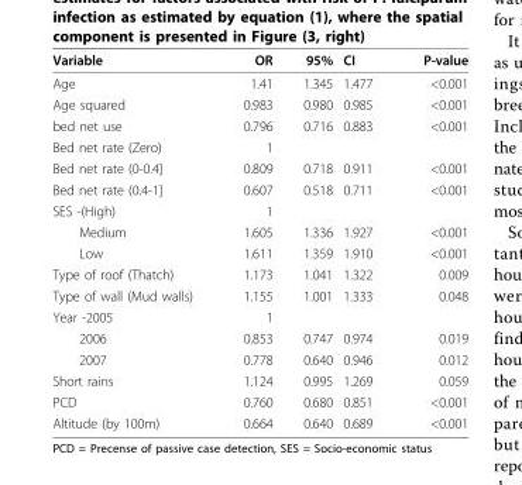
<table><thead><tr><td>Variable</td><td>OR</td><td>95%</td><td>CI</td><td>P-value</td></tr></thead><tbody><tr><td>Age</td><td>1.41</td><td>1.345</td><td>1.477</td><td>&lt;0.001</td></tr><tr><td>Age squared</td><td>0.983</td><td>0.980</td><td>0.985</td><td>&lt;0.001</td></tr><tr><td>bed net use</td><td>0.796</td><td>0.716</td><td>0.883</td><td>&lt;0.001</td></tr><tr><td>Bed net rate (Zero)</td><td>1</td><td></td><td></td><td></td></tr><tr><td>Bed net rate (0-0.4]</td><td>0.809</td><td>0.718</td><td>0.911</td><td>&lt;0.001</td></tr><tr><td>Bed net rate (0.4-1]</td><td>0.607</td><td>0.518</td><td>0.711</td><td>&lt;0.001</td></tr><tr><td>SES -(High)</td><td>1</td><td></td><td></td><td></td></tr><tr><td>Medium</td><td>1.605</td><td>1.336</td><td>1.927</td><td>&lt;0.001</td></tr><tr><td>Low</td><td>1.611</td><td>1.359</td><td>1.910</td><td>&lt;0.001</td></tr><tr><td>Type of roof (Thatch)</td><td>1.173</td><td>1.041</td><td>1.322</td><td>0.009</td></tr><tr><td>Type of wall (Mud walls)</td><td>1.155</td><td>1.001</td><td>1.333</td><td>0.048</td></tr><tr><td>Year -2005</td><td>1</td><td></td><td></td><td></td></tr><tr><td>2006</td><td>0.853</td><td>0.747</td><td>0.974</td><td>0.019</td></tr><tr><td>2007</td><td>0.778</td><td>0.640</td><td>0.946</td><td>0.012</td></tr><tr><td>Short rains</td><td>1.124</td><td>0.995</td><td>1.269</td><td>0.059</td></tr><tr><td>PCD</td><td>0.760</td><td>0.680</td><td>0.851</td><td>&lt;0.001</td></tr><tr><td>Altitude (by 100m)</td><td>0.664</td><td>0.640</td><td>0.689</td><td>&lt;0.001</td></tr></tbody></table>